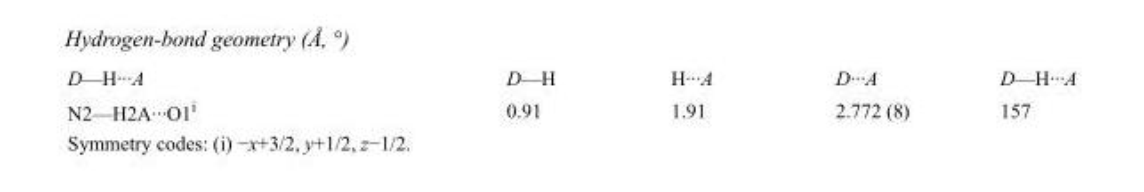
<table><tbody><tr><td>D—H···A</td><td>D—H</td><td>H···A</td><td>D···A</td><td>D—H···A</td></tr><tr><td>N2—H2A···O1<sup>i</sup></td><td>0.91</td><td>1.91</td><td>2.772 (8)</td><td>157</td></tr></tbody></table>